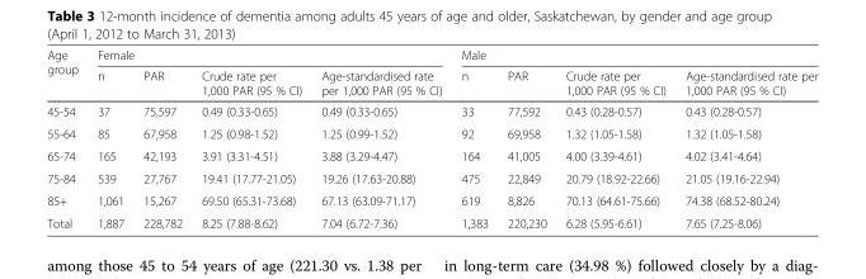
<table><thead><tr><td rowspan="2">Age group</td><td colspan="4">Female</td><td colspan="4">Male</td></tr><tr><td>n</td><td>PAR</td><td>Crude rate per 1,000 PAR (95 % CI)</td><td>Age-standardised rate per 1,000 PAR (95 % CI)</td><td>n</td><td>PAR</td><td>Crude rate per 1,000 PAR (95 % CI)</td><td>Age-standardised rate per 1,000 PAR (95 % CI)</td></tr></thead><tbody><tr><td>45-54</td><td>37</td><td>75,597</td><td>0.49 (0.33-0.65)</td><td>0.49 (0.33-0.65)</td><td>33</td><td>77,592</td><td>0.43 (0.28-0.57)</td><td>0.43 (0.28-0.57)</td></tr><tr><td>55-64</td><td>85</td><td>67,958</td><td>1.25 (0.98-1.52)</td><td>1.25 (0.99-1.52)</td><td>92</td><td>69,958</td><td>1.32 (1.05-1.58)</td><td>1.32 (1.05-1.58)</td></tr><tr><td>65-74</td><td>165</td><td>42,193</td><td>3.91 (3.31-4.51)</td><td>3.88 (3.29-4.47)</td><td>164</td><td>41,005</td><td>4.00 (3.39-4.61)</td><td>4.02 (3.41-4.64)</td></tr><tr><td>75-84</td><td>539</td><td>27,767</td><td>19.41 (17.77-21.05)</td><td>19.26 (17.63-20.88)</td><td>475</td><td>22,849</td><td>20.79 (18.92-22.66)</td><td>21.05 (19.16-22.94)</td></tr><tr><td>85+</td><td>1,061</td><td>15,267</td><td>69.50 (65.31-73.68)</td><td>67.13 (63.09-71.17)</td><td>619</td><td>8,826</td><td>70.13 (64.61-75.66)</td><td>74.38 (68.52-80.24)</td></tr><tr><td>Total</td><td>1,887</td><td>228,782</td><td>8.25 (7.88-8.62)</td><td>7.04 (6.72-7.36)</td><td>1,383</td><td>220,230</td><td>6.28 (5.95-6.61)</td><td>7.65 (7.25-8.06)</td></tr></tbody></table>